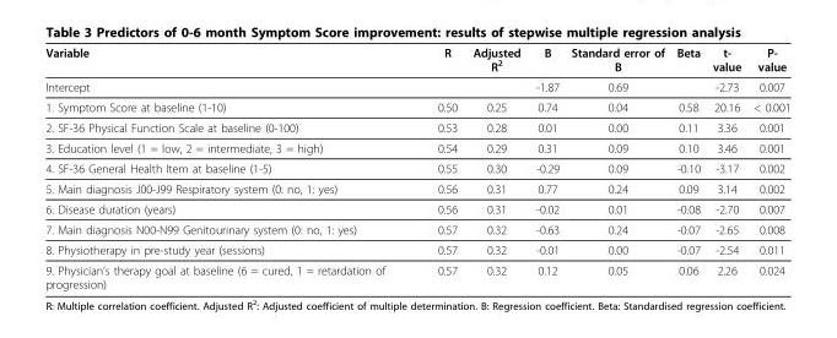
<table><thead><tr><td>Variable</td><td>R</td><td>Adjusted R<sup>2</sup></td><td>B</td><td>Standard error of B</td><td>Beta</td><td>t- value</td><td>P- value</td></tr></thead><tbody><tr><td>Intercept</td><td></td><td></td><td>-1.87</td><td>0.69</td><td></td><td>-2.73</td><td>0.007</td></tr><tr><td>1. Symptom Score at baseline (1-10)</td><td>0.50</td><td>0.25</td><td>0.74</td><td>0.04</td><td>0.58</td><td>20.16</td><td>&lt; 0.001</td></tr><tr><td>2. SF-36 Physical Function Scale at baseline (0-100)</td><td>0.53</td><td>0.28</td><td>0.01</td><td>0.00</td><td>0.11</td><td>3.36</td><td>0.001</td></tr><tr><td>3. Education level (1 = low, 2 = intermediate, 3 = high)</td><td>0.54</td><td>0.29</td><td>0.31</td><td>0.09</td><td>0.10</td><td>3.46</td><td>0.001</td></tr><tr><td>4. SF-36 General Health Item at baseline (1-5)</td><td>0.55</td><td>0.30</td><td>-0.29</td><td>0.09</td><td>-0.10</td><td>-3.17</td><td>0.002</td></tr><tr><td>5. Main diagnosis J00-J99 Respiratory system (0: no, 1: yes)</td><td>0.56</td><td>0.31</td><td>0.77</td><td>0.24</td><td>0.09</td><td>3.14</td><td>0.002</td></tr><tr><td>6. Disease duration (years)</td><td>0.56</td><td>0.31</td><td>-0.02</td><td>0.01</td><td>-0.08</td><td>-2.70</td><td>0.007</td></tr><tr><td>7. Main diagnosis N00-N99 Genitourinary system (0: no, 1: yes)</td><td>0.57</td><td>0.32</td><td>-0.63</td><td>0.24</td><td>-0.07</td><td>-2.65</td><td>0.008</td></tr><tr><td>8. Physiotherapy in pre-study year (sessions)</td><td>0.57</td><td>0.32</td><td>-0.01</td><td>0.00</td><td>-0.07</td><td>-2.54</td><td>0.011</td></tr><tr><td>9. Physician’s therapy goal at baseline (6 = cured, 1 = retardation of progression)</td><td>0.57</td><td>0.32</td><td>0.12</td><td>0.05</td><td>0.06</td><td>2.26</td><td>0.024</td></tr></tbody></table>